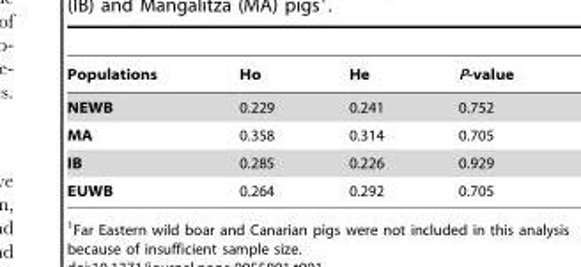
<table><thead><tr><td>Populations</td><td>Ho</td><td>He</td><td>P-value</td></tr></thead><tbody><tr><td>NEWB</td><td>0.229</td><td>0.241</td><td>0.752</td></tr><tr><td>MA</td><td>0.358</td><td>0.314</td><td>0.705</td></tr><tr><td>IB</td><td>0.285</td><td>0.226</td><td>0.929</td></tr><tr><td>EUWB</td><td>0.264</td><td>0.292</td><td>0.705</td></tr></tbody></table>